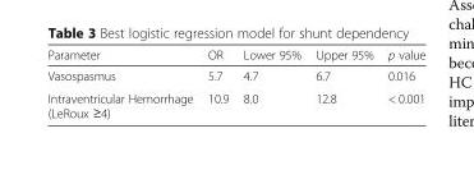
<table><thead><tr><td>Parameter</td><td>OR</td><td>Lower 95%</td><td>Upper 95%</td><td>p value</td></tr></thead><tbody><tr><td>Vasospasmus</td><td>5.7</td><td>4.7</td><td>6.7</td><td>0.016</td></tr><tr><td>Intraventricular Hemorrhage (LeRoux ≥4)</td><td>10.9</td><td>8.0</td><td>12.8</td><td>&lt; 0.001</td></tr></tbody></table>